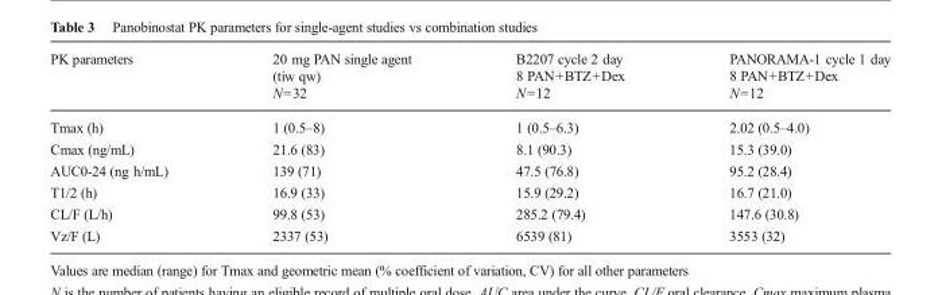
<table><thead><tr><td>PK parameters</td><td>20 mg PAN single agent (tiw qw) N=32</td><td>B2207 cycle 2 day 8 PAN+BTZ+Dex N=12</td><td>PANORAMA-1 cycle 1 day 8 PAN+BTZ+Dex N=12</td></tr></thead><tbody><tr><td>Tmax (h)</td><td>1 (0.5–8)</td><td>1 (0.5–6.3)</td><td>2.02 (0.5–4.0)</td></tr><tr><td>Cmax (ng/mL)</td><td>21.6 (83)</td><td>8.1 (90.3)</td><td>15.3 (39.0)</td></tr><tr><td>AUC0-24 (ng h/mL)</td><td>139 (71)</td><td>47.5 (76.8)</td><td>95.2 (28.4)</td></tr><tr><td>T1/2 (h)</td><td>16.9 (33)</td><td>15.9 (29.2)</td><td>16.7 (21.0)</td></tr><tr><td>CL/F (L/h)</td><td>99.8 (53)</td><td>285.2 (79.4)</td><td>147.6 (30.8)</td></tr><tr><td>Vz/F (L)</td><td>2337 (53)</td><td>6539 (81)</td><td>3553 (32)</td></tr></tbody></table>